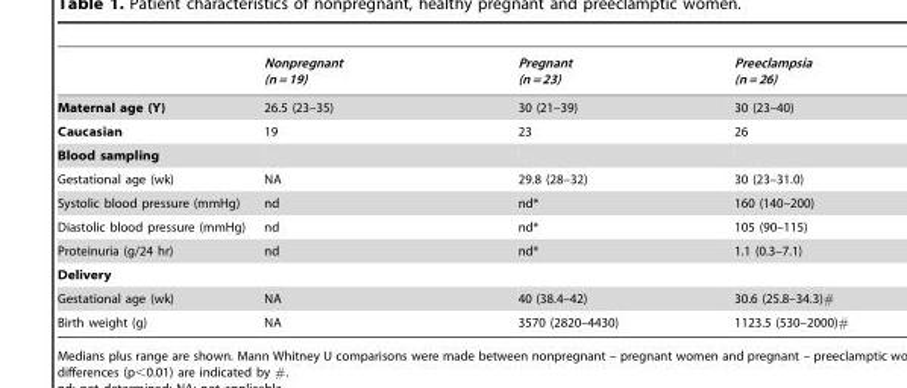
<table><thead><tr><td></td><td>Nonpregnant (n = 19)</td><td>Pregnant (n = 23)</td><td>Preeclampsia (n = 26)</td></tr></thead><tbody><tr><td>Maternal age (Y)</td><td>26.5 (23–35)</td><td>30 (21–39)</td><td>30 (23–40)</td></tr><tr><td>Caucasian</td><td>19</td><td>23</td><td>26</td></tr><tr><td colspan="4">Blood sampling</td></tr><tr><td>Gestational age (wk)</td><td>NA</td><td>29.8 (28–32)</td><td>30 (23–31.0)</td></tr><tr><td>Systolic blood pressure (mmHg)</td><td>nd</td><td>nd*</td><td>160 (140–200)</td></tr><tr><td>Diastolic blood pressure (mmHg)</td><td>nd</td><td>nd*</td><td>105 (90–115)</td></tr><tr><td>Proteinuria (g/24 hr)</td><td>nd</td><td>nd*</td><td>1.1 (0.3–7.1)</td></tr><tr><td colspan="4">Delivery</td></tr><tr><td>Gestational age (wk)</td><td>NA</td><td>40 (38.4–42)</td><td>30.6 (25.8–34.3)#</td></tr><tr><td>Birth weight (g)</td><td>NA</td><td>3570 (2820–4430)</td><td>1123.5 (530–2000)#</td></tr></tbody></table>